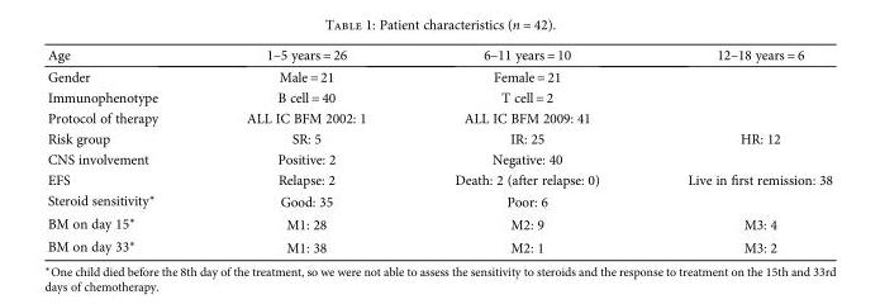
<table><thead><tr><td>Age</td><td>1–5 years = 26</td><td>6–11 years = 10</td><td>12–18 years = 6</td></tr></thead><tbody><tr><td>Gender</td><td>Male = 21</td><td>Female = 21</td><td></td></tr><tr><td>Immunophenotype</td><td>B cell = 40</td><td>T cell = 2</td><td></td></tr><tr><td>Protocol of therapy</td><td>ALL IC BFM 2002: 1</td><td>ALL IC BFM 2009: 41</td><td></td></tr><tr><td>Risk group</td><td>SR: 5</td><td>IR: 25</td><td>HR: 12</td></tr><tr><td>CNS involvement</td><td>Positive: 2</td><td>Negative: 40</td><td></td></tr><tr><td>EFS</td><td>Relapse: 2</td><td>Death: 2 (after relapse: 0)</td><td>Live in first remission: 38</td></tr><tr><td>Steroid sensitivity∗</td><td>Good: 35</td><td>Poor: 6</td><td></td></tr><tr><td>BM on day 15∗</td><td>M1: 28</td><td>M2: 9</td><td>M3: 4</td></tr><tr><td>BM on day 33∗</td><td>M1: 38</td><td>M2: 1</td><td>M3: 2</td></tr></tbody></table>